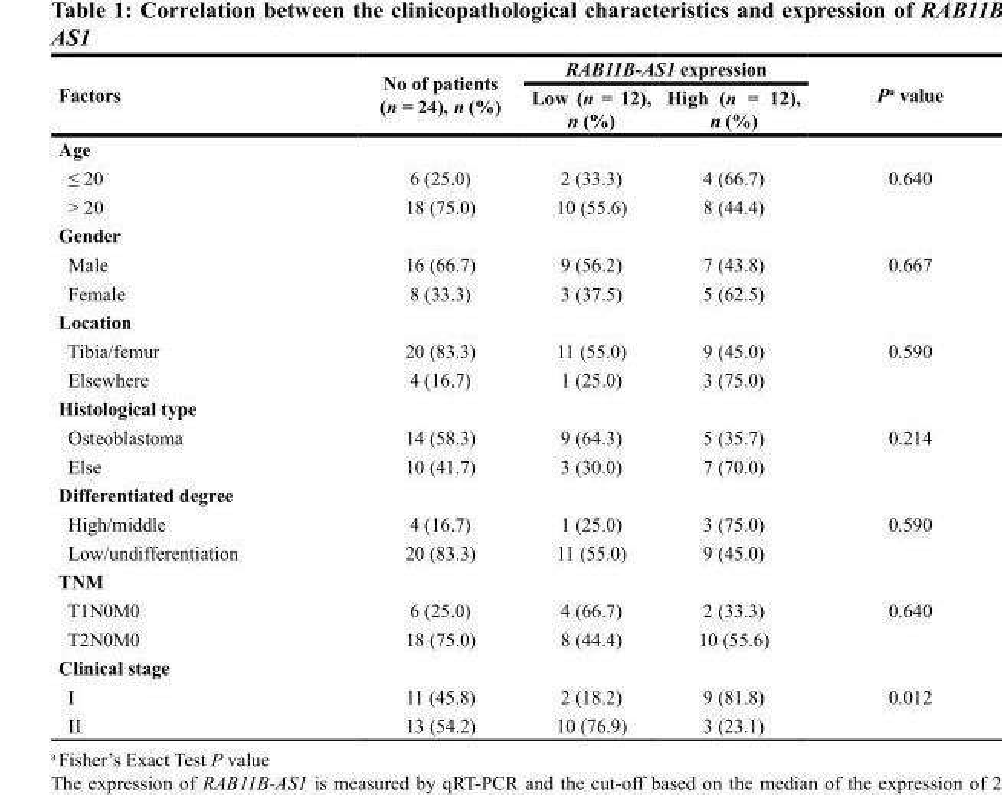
<table><thead><tr><td rowspan="2">Factors</td><td rowspan="2">No of patients (n = 24), n (%)</td><td colspan="2">RAB11B-AS1 expression</td><td rowspan="2">P<sup>a</sup> value</td></tr><tr><td>Low (n = 12), n (%)</td><td>High (n = 12), n (%)</td></tr></thead><tbody><tr><td colspan="5">Age</td></tr><tr><td>≤ 20</td><td>6 (25.0)</td><td>2 (33.3)</td><td>4 (66.7)</td><td>0.640</td></tr><tr><td>&gt; 20</td><td>18 (75.0)</td><td>10 (55.6)</td><td>8 (44.4)</td><td></td></tr><tr><td colspan="5">Gender</td></tr><tr><td>Male</td><td>16 (66.7)</td><td>9 (56.2)</td><td>7 (43.8)</td><td>0.667</td></tr><tr><td>Female</td><td>8 (33.3)</td><td>3 (37.5)</td><td>5 (62.5)</td><td></td></tr><tr><td colspan="5">Location</td></tr><tr><td>Tibia/femur</td><td>20 (83.3)</td><td>11 (55.0)</td><td>9 (45.0)</td><td>0.590</td></tr><tr><td>Elsewhere</td><td>4 (16.7)</td><td>1 (25.0)</td><td>3 (75.0)</td><td></td></tr><tr><td colspan="5">Histological type</td></tr><tr><td>Osteoblastoma</td><td>14 (58.3)</td><td>9 (64.3)</td><td>5 (35.7)</td><td>0.214</td></tr><tr><td>Else</td><td>10 (41.7)</td><td>3 (30.0)</td><td>7 (70.0)</td><td></td></tr><tr><td colspan="5">Differentiated degree</td></tr><tr><td>High/middle</td><td>4 (16.7)</td><td>1 (25.0)</td><td>3 (75.0)</td><td>0.590</td></tr><tr><td>Low/undifferentiation</td><td>20 (83.3)</td><td>11 (55.0)</td><td>9 (45.0)</td><td></td></tr><tr><td colspan="5">TNM</td></tr><tr><td>T1N0M0</td><td>6 (25.0)</td><td>4 (66.7)</td><td>2 (33.3)</td><td>0.640</td></tr><tr><td>T2N0M0</td><td>18 (75.0)</td><td>8 (44.4)</td><td>10 (55.6)</td><td></td></tr><tr><td colspan="5">Clinical stage</td></tr><tr><td>I</td><td>11 (45.8)</td><td>2 (18.2)</td><td>9 (81.8)</td><td>0.012</td></tr><tr><td>II</td><td>13 (54.2)</td><td>10 (76.9)</td><td>3 (23.1)</td><td></td></tr></tbody></table>